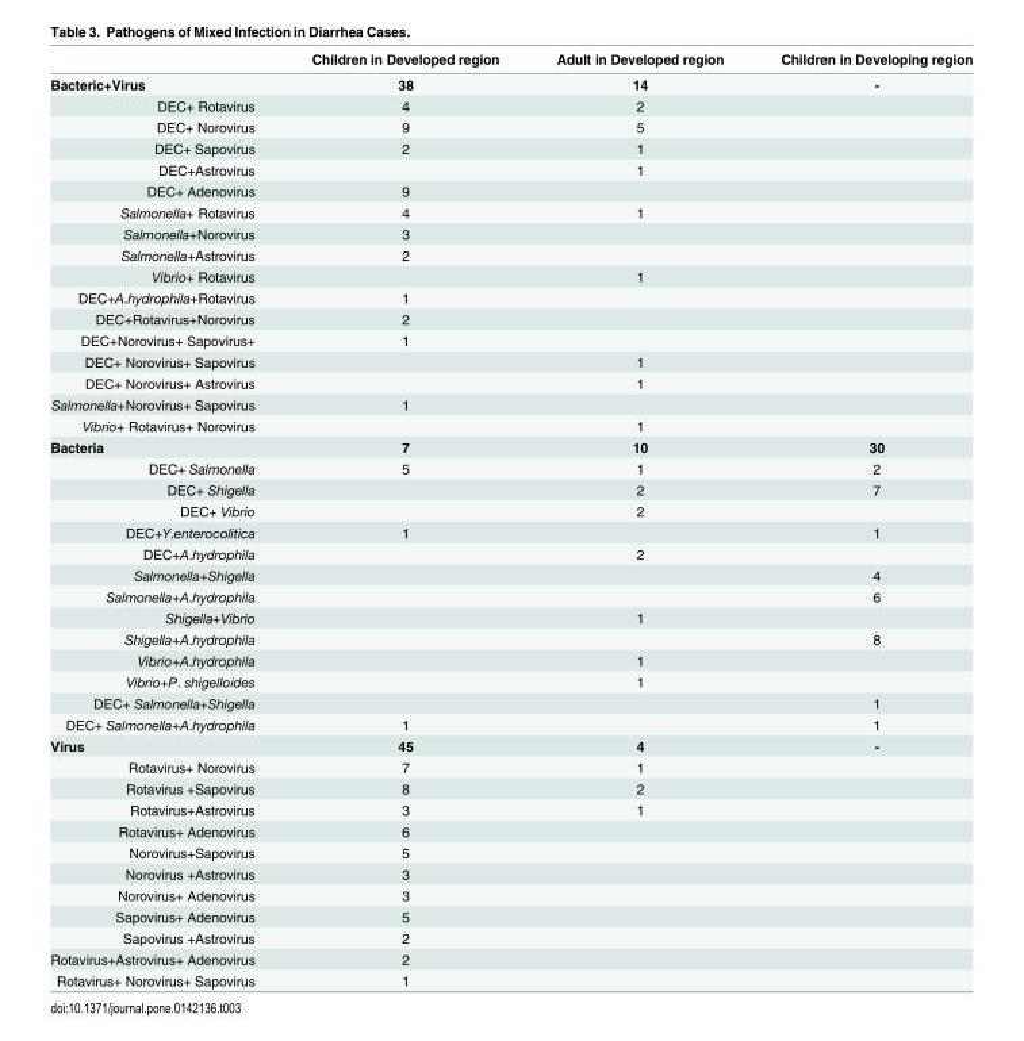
<table><thead><tr><td></td><td>Children in Developed region</td><td>Adult in Developed region</td><td>Children in Developing region</td></tr></thead><tbody><tr><td>Bacteric+Virus</td><td>38</td><td>14</td><td>-</td></tr><tr><td>DEC+ Rotavirus</td><td>4</td><td>2</td><td></td></tr><tr><td>DEC+ Norovirus</td><td>9</td><td>5</td><td></td></tr><tr><td>DEC+ Sapovirus</td><td>2</td><td>1</td><td></td></tr><tr><td>DEC+Astrovirus</td><td></td><td>1</td><td></td></tr><tr><td>DEC+ Adenovirus</td><td>9</td><td></td><td></td></tr><tr><td>Salmonella+ Rotavirus</td><td>4</td><td>1</td><td></td></tr><tr><td>Salmonella+Norovirus</td><td>3</td><td></td><td></td></tr><tr><td>Salmonella+Astrovirus</td><td>2</td><td></td><td></td></tr><tr><td>Vibrio+ Rotavirus</td><td></td><td>1</td><td></td></tr><tr><td>DEC+A.hydrophila+Rotavirus</td><td>1</td><td></td><td></td></tr><tr><td>DEC+Rotavirus+Norovirus</td><td>2</td><td></td><td></td></tr><tr><td>DEC+Norovirus+ Sapovirus+</td><td>1</td><td></td><td></td></tr><tr><td>DEC+ Norovirus+ Sapovirus</td><td></td><td>1</td><td></td></tr><tr><td>DEC+ Norovirus+ Astrovirus</td><td></td><td>1</td><td></td></tr><tr><td>Salmonella+Norovirus+ Sapovirus</td><td>1</td><td></td><td></td></tr><tr><td>Vibrio+ Rotavirus+ Norovirus</td><td></td><td>1</td><td></td></tr><tr><td>Bacteria</td><td>7</td><td>10</td><td>30</td></tr><tr><td>DEC+ Salmonella</td><td>5</td><td>1</td><td>2</td></tr><tr><td>DEC+ Shigella</td><td></td><td>2</td><td>7</td></tr><tr><td>DEC+ Vibrio</td><td></td><td>2</td><td></td></tr><tr><td>DEC+Y.enterocolitica</td><td>1</td><td></td><td>1</td></tr><tr><td>DEC+A.hydrophila</td><td></td><td>2</td><td></td></tr><tr><td>Salmonella+Shigella</td><td></td><td></td><td>4</td></tr><tr><td>Salmonella+A.hydrophila</td><td></td><td></td><td>6</td></tr><tr><td>Shigella+Vibrio</td><td></td><td>1</td><td></td></tr><tr><td>Shigella+A.hydrophila</td><td></td><td></td><td>8</td></tr><tr><td>Vibrio+A.hydrophila</td><td></td><td>1</td><td></td></tr><tr><td>Vibrio+P. shigelloides</td><td></td><td>1</td><td></td></tr><tr><td>DEC+ Salmonella+Shigella</td><td></td><td></td><td>1</td></tr><tr><td>DEC+ Salmonella+A.hydrophila</td><td>1</td><td></td><td>1</td></tr><tr><td>Virus</td><td>45</td><td>4</td><td>-</td></tr><tr><td>Rotavirus+ Norovirus</td><td>7</td><td>1</td><td></td></tr><tr><td>Rotavirus +Sapovirus</td><td>8</td><td>2</td><td></td></tr><tr><td>Rotavirus+Astrovirus</td><td>3</td><td>1</td><td></td></tr><tr><td>Rotavirus+ Adenovirus</td><td>6</td><td></td><td></td></tr><tr><td>Norovirus+Sapovirus</td><td>5</td><td></td><td></td></tr><tr><td>Norovirus +Astrovirus</td><td>3</td><td></td><td></td></tr><tr><td>Norovirus+ Adenovirus</td><td>3</td><td></td><td></td></tr><tr><td>Sapovirus+ Adenovirus</td><td>5</td><td></td><td></td></tr><tr><td>Sapovirus +Astrovirus</td><td>2</td><td></td><td></td></tr><tr><td>Rotavirus+Astrovirus+ Adenovirus</td><td>2</td><td></td><td></td></tr><tr><td>Rotavirus+ Norovirus+ Sapovirus</td><td>1</td><td></td><td></td></tr></tbody></table>